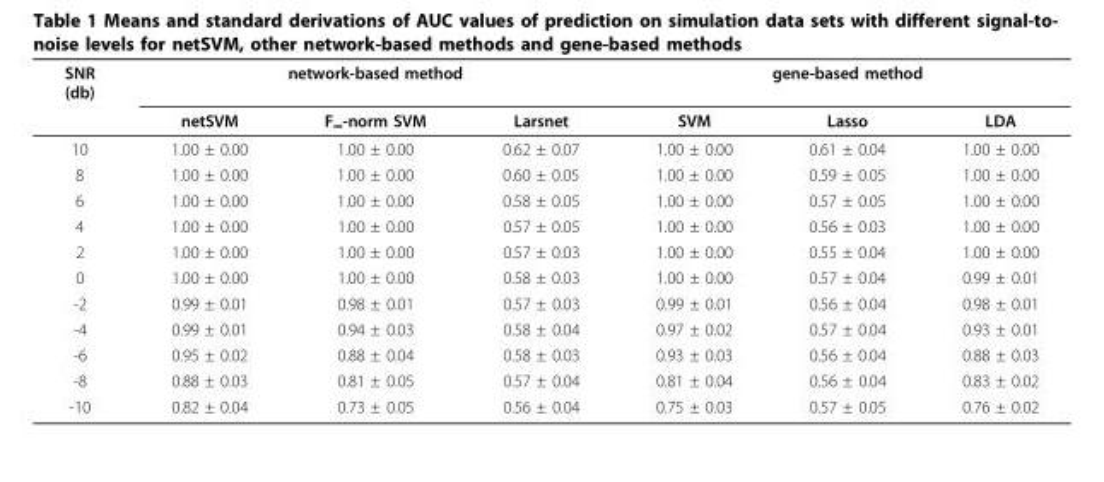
<table><thead><tr><td rowspan="2">SNR (db)</td><td colspan="3">network-based method</td><td colspan="3">gene-based method</td></tr><tr><td>netSVM</td><td>F<sub>∞</sub>-norm SVM</td><td>Larsnet</td><td>SVM</td><td>Lasso</td><td>LDA</td></tr></thead><tbody><tr><td>10</td><td>1.00 ± 0.00</td><td>1.00 ± 0.00</td><td>0.62 ± 0.07</td><td>1.00 ± 0.00</td><td>0.61 ± 0.04</td><td>1.00 ± 0.00</td></tr><tr><td>8</td><td>1.00 ± 0.00</td><td>1.00 ± 0.00</td><td>0.60 ± 0.05</td><td>1.00 ± 0.00</td><td>0.59 ± 0.05</td><td>1.00 ± 0.00</td></tr><tr><td>6</td><td>1.00 ± 0.00</td><td>1.00 ± 0.00</td><td>0.58 ± 0.05</td><td>1.00 ± 0.00</td><td>0.57 ± 0.05</td><td>1.00 ± 0.00</td></tr><tr><td>4</td><td>1.00 ± 0.00</td><td>1.00 ± 0.00</td><td>0.57 ± 0.05</td><td>1.00 ± 0.00</td><td>0.56 ± 0.03</td><td>1.00 ± 0.00</td></tr><tr><td>2</td><td>1.00 ± 0.00</td><td>1.00 ± 0.00</td><td>0.57 ± 0.03</td><td>1.00 ± 0.00</td><td>0.55 ± 0.04</td><td>1.00 ± 0.00</td></tr><tr><td>0</td><td>1.00 ± 0.00</td><td>1.00 ± 0.00</td><td>0.58 ± 0.03</td><td>1.00 ± 0.00</td><td>0.57 ± 0.04</td><td>0.99 ± 0.01</td></tr><tr><td>-2</td><td>0.99 ± 0.01</td><td>0.98 ± 0.01</td><td>0.57 ± 0.03</td><td>0.99 ± 0.01</td><td>0.56 ± 0.04</td><td>0.98 ± 0.01</td></tr><tr><td>-4</td><td>0.99 ± 0.01</td><td>0.94 ± 0.03</td><td>0.58 ± 0.04</td><td>0.97 ± 0.02</td><td>0.57 ± 0.04</td><td>0.93 ± 0.01</td></tr><tr><td>-6</td><td>0.95 ± 0.02</td><td>0.88 ± 0.04</td><td>0.58 ± 0.03</td><td>0.93 ± 0.03</td><td>0.56 ± 0.04</td><td>0.88 ± 0.03</td></tr><tr><td>-8</td><td>0.88 ± 0.03</td><td>0.81 ± 0.05</td><td>0.57 ± 0.04</td><td>0.81 ± 0.04</td><td>0.56 ± 0.04</td><td>0.83 ± 0.02</td></tr><tr><td>-10</td><td>0.82 ± 0.04</td><td>0.73 ± 0.05</td><td>0.56 ± 0.04</td><td>0.75 ± 0.03</td><td>0.57 ± 0.05</td><td>0.76 ± 0.02</td></tr></tbody></table>